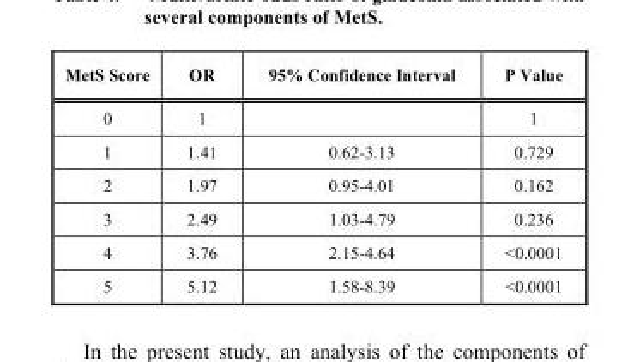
<table><thead><tr><td>MetS Score</td><td>OR</td><td>95% Confidence Interval</td><td>P Value</td></tr></thead><tbody><tr><td>0</td><td>1</td><td></td><td>1</td></tr><tr><td>1</td><td>1.41</td><td>0.62-3.13</td><td>0.729</td></tr><tr><td>2</td><td>1.97</td><td>0.95-4.01</td><td>0.162</td></tr><tr><td>3</td><td>2.49</td><td>1.03-4.79</td><td>0.236</td></tr><tr><td>4</td><td>3.76</td><td>2.15-4.64</td><td>&lt;0.0001</td></tr><tr><td>5</td><td>5.12</td><td>1.58-8.39</td><td>&lt;0.0001</td></tr></tbody></table>